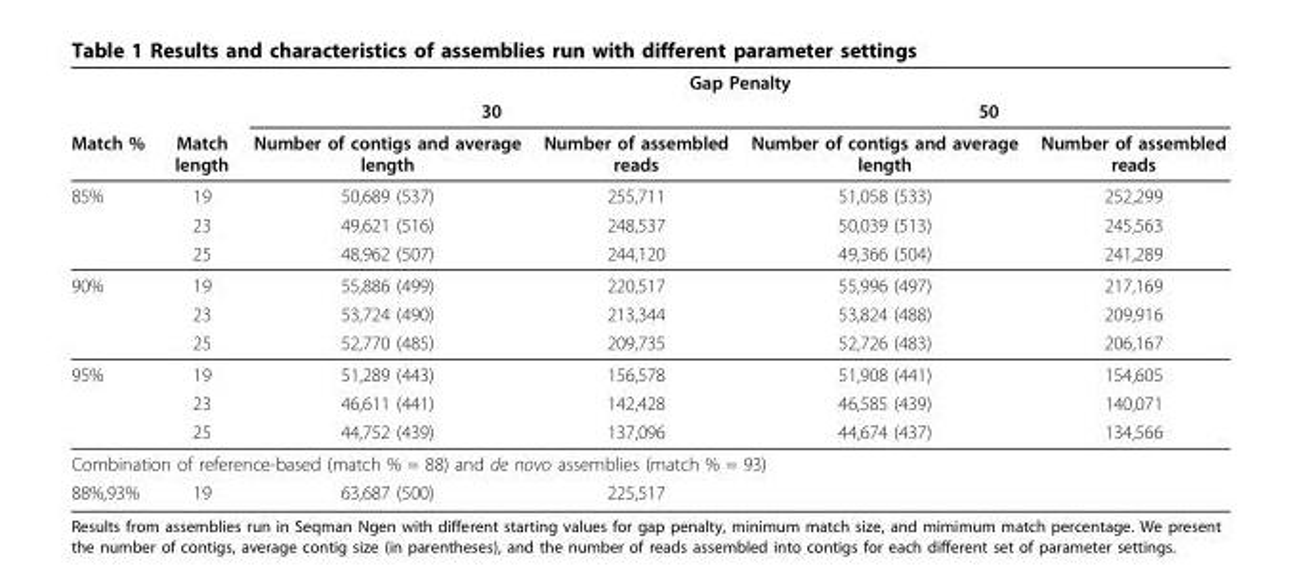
<table><thead><tr><td rowspan="3">Match %</td><td rowspan="3">Match length</td><td colspan="4">Gap Penalty</td></tr><tr><td colspan="2">30</td><td colspan="2">50</td></tr><tr><td>Number of contigs and average length</td><td>Number of assembled reads</td><td>Number of contigs and average length</td><td>Number of assembled reads</td></tr></thead><tbody><tr><td rowspan="3">85%</td><td>19</td><td>50,689 (537)</td><td>255,711</td><td>51,058 (533)</td><td>252,299</td></tr><tr><td>23</td><td>49,621 (516)</td><td>248,537</td><td>50,039 (513)</td><td>245,563</td></tr><tr><td>25</td><td>48,962 (507)</td><td>244,120</td><td>49,366 (504)</td><td>241,289</td></tr><tr><td rowspan="3">90%</td><td>19</td><td>55,886 (499)</td><td>220,517</td><td>55,996 (497)</td><td>217,169</td></tr><tr><td>23</td><td>53,724 (490)</td><td>213,344</td><td>53,824 (488)</td><td>209,916</td></tr><tr><td>25</td><td>52,770 (485)</td><td>209,735</td><td>52,726 (483)</td><td>206,167</td></tr><tr><td rowspan="3">95%</td><td>19</td><td>51,289 (443)</td><td>156,578</td><td>51,908 (441)</td><td>154,605</td></tr><tr><td>23</td><td>46,611 (441)</td><td>142,428</td><td>46,585 (439)</td><td>140,071</td></tr><tr><td>25</td><td>44,752 (439)</td><td>137,096</td><td>44,674 (437)</td><td>134,566</td></tr><tr><td colspan="6">Combination of reference-based (match % = 88) and de novo assemblies (match % = 93)</td></tr><tr><td>88%,93%</td><td>19</td><td>63,687 (500)</td><td>225,517</td><td></td><td></td></tr></tbody></table>